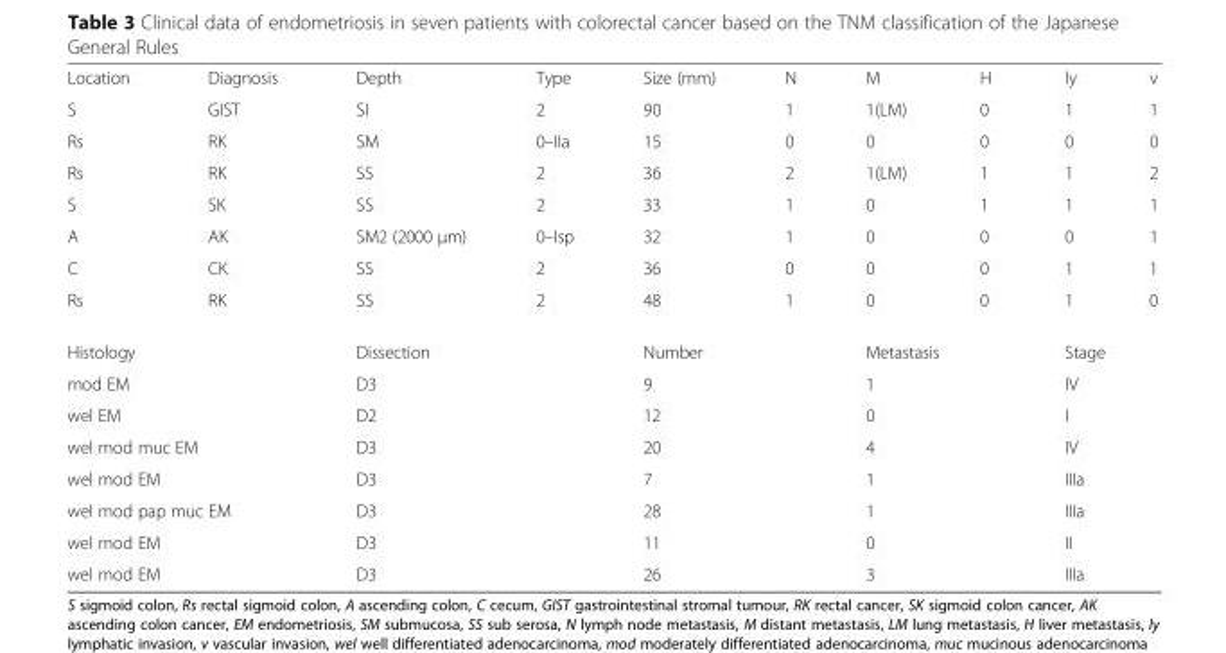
<table><tbody><tr><td>Location</td><td>Diagnosis</td><td>Depth</td><td>Type</td><td>Size (mm)</td><td>N</td><td>M</td><td>H</td><td>ly</td><td>v</td></tr><tr><td>S</td><td>GIST</td><td>SI</td><td>2</td><td>90</td><td>1</td><td>1(LM)</td><td>0</td><td>1</td><td>1</td></tr><tr><td>Rs</td><td>RK</td><td>SM</td><td>0–IIa</td><td>15</td><td>0</td><td>0</td><td>0</td><td>0</td><td>0</td></tr><tr><td>Rs</td><td>RK</td><td>SS</td><td>2</td><td>36</td><td>2</td><td>1(LM)</td><td>1</td><td>1</td><td>2</td></tr><tr><td>S</td><td>SK</td><td>SS</td><td>2</td><td>33</td><td>1</td><td>0</td><td>1</td><td>1</td><td>1</td></tr><tr><td>A</td><td>AK</td><td>SM2 (2000 μm)</td><td>0–Isp</td><td>32</td><td>1</td><td>0</td><td>0</td><td>0</td><td>1</td></tr><tr><td>C</td><td>CK</td><td>SS</td><td>2</td><td>36</td><td>0</td><td>0</td><td>0</td><td>1</td><td>1</td></tr><tr><td>Rs</td><td>RK</td><td>SS</td><td>2</td><td>48</td><td>1</td><td>0</td><td>0</td><td>1</td><td>0</td></tr><tr><td colspan="2">Histology</td><td colspan="2">Dissection</td><td colspan="2">Number</td><td colspan="2">Metastasis</td><td colspan="2">Stage</td></tr><tr><td colspan="2">mod EM</td><td colspan="2">D3</td><td colspan="2">9</td><td colspan="2">1</td><td colspan="2">IV</td></tr><tr><td colspan="2">wel EM</td><td colspan="2">D2</td><td colspan="2">12</td><td colspan="2">0</td><td colspan="2">I</td></tr><tr><td colspan="2">wel mod muc EM</td><td colspan="2">D3</td><td colspan="2">20</td><td colspan="2">4</td><td colspan="2">IV</td></tr><tr><td colspan="2">wel mod EM</td><td colspan="2">D3</td><td colspan="2">7</td><td colspan="2">1</td><td colspan="2">IIIa</td></tr><tr><td colspan="2">wel mod pap muc EM</td><td colspan="2">D3</td><td colspan="2">28</td><td colspan="2">1</td><td colspan="2">IIIa</td></tr><tr><td colspan="2">wel mod EM</td><td colspan="2">D3</td><td colspan="2">11</td><td colspan="2">0</td><td colspan="2">II</td></tr><tr><td colspan="2">wel mod EM</td><td colspan="2">D3</td><td colspan="2">26</td><td colspan="2">3</td><td colspan="2">IIIa</td></tr></tbody></table>